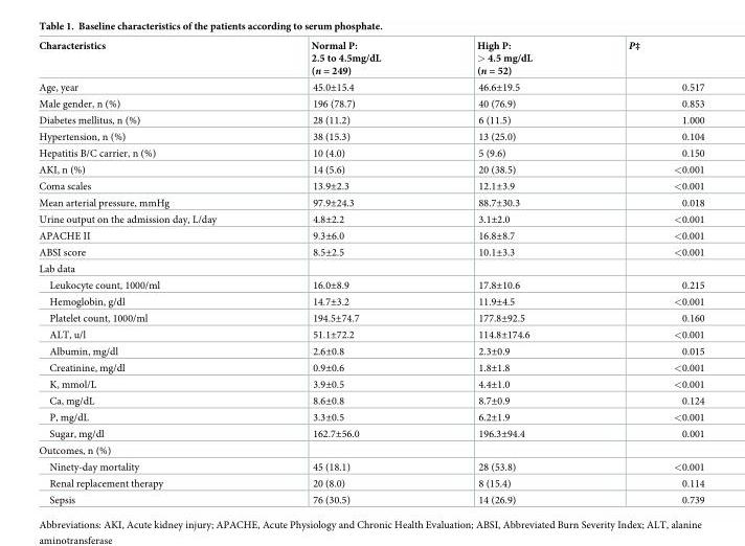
<table><thead><tr><td>Characteristics</td><td>Normal P: 2.5 to 4.5mg/dL (n = 249)</td><td>High P: &gt; 4.5 mg/dL (n = 52)</td><td>P‡</td></tr></thead><tbody><tr><td>Age, year</td><td>45.0±15.4</td><td>46.6±19.5</td><td>0.517</td></tr><tr><td>Male gender, n (%)</td><td>196 (78.7)</td><td>40 (76.9)</td><td>0.853</td></tr><tr><td>Diabetes mellitus, n (%)</td><td>28 (11.2)</td><td>6 (11.5)</td><td>1.000</td></tr><tr><td>Hypertension, n (%)</td><td>38 (15.3)</td><td>13 (25.0)</td><td>0.104</td></tr><tr><td>Hepatitis B/C carrier, n (%)</td><td>10 (4.0)</td><td>5 (9.6)</td><td>0.150</td></tr><tr><td>AKI, n (%)</td><td>14 (5.6)</td><td>20 (38.5)</td><td>&lt;0.001</td></tr><tr><td>Coma scales</td><td>13.9±2.3</td><td>12.1±3.9</td><td>&lt;0.001</td></tr><tr><td>Mean arterial pressure, mmHg</td><td>97.9±24.3</td><td>88.7±30.3</td><td>0.018</td></tr><tr><td>Urine output on the admission day, L/day</td><td>4.8±2.2</td><td>3.1±2.0</td><td>&lt;0.001</td></tr><tr><td>APACHE II</td><td>9.3±6.0</td><td>16.8±8.7</td><td>&lt;0.001</td></tr><tr><td>ABSI score</td><td>8.5±2.5</td><td>10.1±3.3</td><td>&lt;0.001</td></tr><tr><td colspan="4">Lab data</td></tr><tr><td>Leukocyte count, 1000/ml</td><td>16.0±8.9</td><td>17.8±10.6</td><td>0.215</td></tr><tr><td>Hemoglobin, g/dl</td><td>14.7±3.2</td><td>11.9±4.5</td><td>&lt;0.001</td></tr><tr><td>Platelet count, 1000/ml</td><td>194.5±74.7</td><td>177.8±92.5</td><td>0.160</td></tr><tr><td>ALT, u/l</td><td>51.1±72.2</td><td>114.8±174.6</td><td>&lt;0.001</td></tr><tr><td>Albumin, mg/dl</td><td>2.6±0.8</td><td>2.3±0.9</td><td>0.015</td></tr><tr><td>Creatinine, mg/dl</td><td>0.9±0.6</td><td>1.8±1.8</td><td>&lt;0.001</td></tr><tr><td>K, mmol/L</td><td>3.9±0.5</td><td>4.4±1.0</td><td>&lt;0.001</td></tr><tr><td>Ca, mg/dL</td><td>8.6±0.8</td><td>8.7±0.9</td><td>0.124</td></tr><tr><td>P, mg/dL</td><td>3.3±0.5</td><td>6.2±1.9</td><td>&lt;0.001</td></tr><tr><td>Sugar, mg/dl</td><td>162.7±56.0</td><td>196.3±94.4</td><td>0.001</td></tr><tr><td colspan="4">Outcomes, n (%)</td></tr><tr><td>Ninety-day mortality</td><td>45 (18.1)</td><td>28 (53.8)</td><td>&lt;0.001</td></tr><tr><td>Renal replacement therapy</td><td>20 (8.0)</td><td>8 (15.4)</td><td>0.114</td></tr><tr><td>Sepsis</td><td>76 (30.5)</td><td>14 (26.9)</td><td>0.739</td></tr></tbody></table>